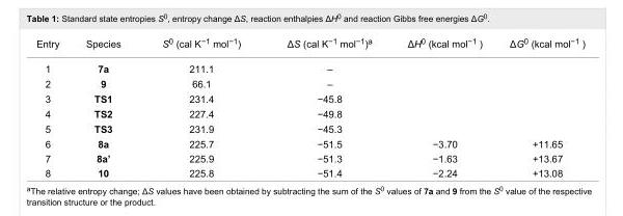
<table><tbody><tr><td>Entry</td><td>Species</td><td>S<sup>0</sup> (cal K<sup>−1</sup> mol<sup>−1</sup>)</td><td>ΔS (cal K<sup>−1</sup> mol<sup>−1</sup>)<sup>a</sup></td><td>ΔH<sup>0</sup> (kcal mol<sup>−1</sup> )</td><td>ΔG<sup>0</sup> (kcal mol<sup>−1</sup> )</td></tr><tr><td>1</td><td>7a</td><td>211.1</td><td>–</td><td></td><td></td></tr><tr><td>2</td><td>9</td><td>66.1</td><td>–</td><td></td><td></td></tr><tr><td>3</td><td>TS1</td><td>231.4</td><td>−45.8</td><td></td><td></td></tr><tr><td>4</td><td>TS2</td><td>227.4</td><td>−49.8</td><td></td><td></td></tr><tr><td>5</td><td>TS3</td><td>231.9</td><td>−45.3</td><td></td><td></td></tr><tr><td>6</td><td>8a</td><td>225.7</td><td>−51.5</td><td>−3.70</td><td>+11.65</td></tr><tr><td>7</td><td>8a’</td><td>225.9</td><td>−51.3</td><td>−1.63</td><td>+13.67</td></tr><tr><td>8</td><td>10</td><td>225.8</td><td>−51.4</td><td>−2.24</td><td>+13.08</td></tr></tbody></table>